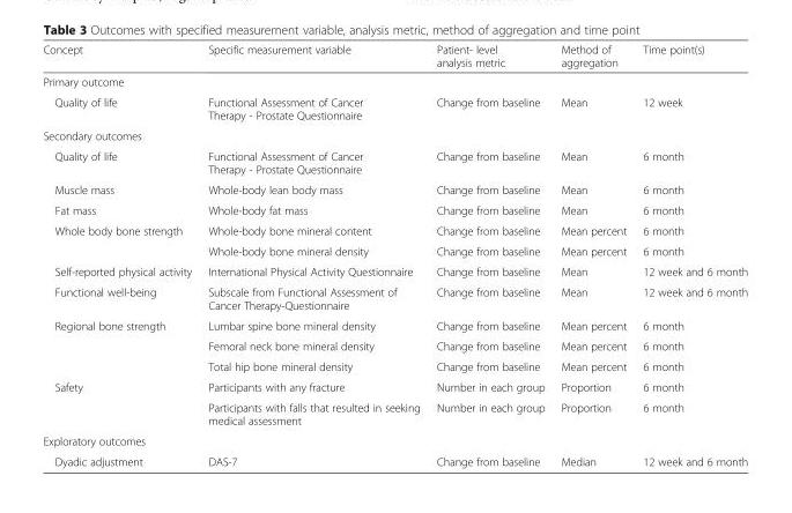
<table><thead><tr><td>Concept</td><td>Specific measurement variable</td><td>Patient- level analysis metric</td><td>Method of aggregation</td><td>Time point(s)</td></tr></thead><tbody><tr><td colspan="5">Primary outcome</td></tr><tr><td>Quality of life</td><td>Functional Assessment of Cancer Therapy - Prostate Questionnaire</td><td>Change from baseline</td><td>Mean</td><td>12 week</td></tr><tr><td colspan="5">Secondary outcomes</td></tr><tr><td>Quality of life</td><td>Functional Assessment of Cancer Therapy - Prostate Questionnaire</td><td>Change from baseline</td><td>Mean</td><td>6 month</td></tr><tr><td>Muscle mass</td><td>Whole-body lean body mass</td><td>Change from baseline</td><td>Mean</td><td>6 month</td></tr><tr><td>Fat mass</td><td>Whole-body fat mass</td><td>Change from baseline</td><td>Mean</td><td>6 month</td></tr><tr><td rowspan="2">Whole body bone strength</td><td>Whole-body bone mineral content</td><td>Change from baseline</td><td>Mean percent</td><td>6 month</td></tr><tr><td>Whole-body bone mineral density</td><td>Change from baseline</td><td>Mean percent</td><td>6 month</td></tr><tr><td>Self-reported physical activity</td><td>International Physical Activity Questionnaire</td><td>Change from baseline</td><td>Mean</td><td>12 week and 6 month</td></tr><tr><td>Functional well-being</td><td>Subscale from Functional Assessment of Cancer Therapy-Questionnaire</td><td>Change from baseline</td><td>Mean</td><td>12 week and 6 month</td></tr><tr><td rowspan="3">Regional bone strength</td><td>Lumbar spine bone mineral density</td><td>Change from baseline</td><td>Mean percent</td><td>6 month</td></tr><tr><td>Femoral neck bone mineral density</td><td>Change from baseline</td><td>Mean percent</td><td>6 month</td></tr><tr><td>Total hip bone mineral density</td><td>Change from baseline</td><td>Mean percent</td><td>6 month</td></tr><tr><td rowspan="2">Safety</td><td>Participants with any fracture</td><td>Number in each group</td><td>Proportion</td><td>6 month</td></tr><tr><td>Participants with falls that resulted in seeking medical assessment</td><td>Number in each group</td><td>Proportion</td><td>6 month</td></tr><tr><td colspan="5">Exploratory outcomes</td></tr><tr><td>Dyadic adjustment</td><td>DAS-7</td><td>Change from baseline</td><td>Median</td><td>12 week and 6 month</td></tr></tbody></table>